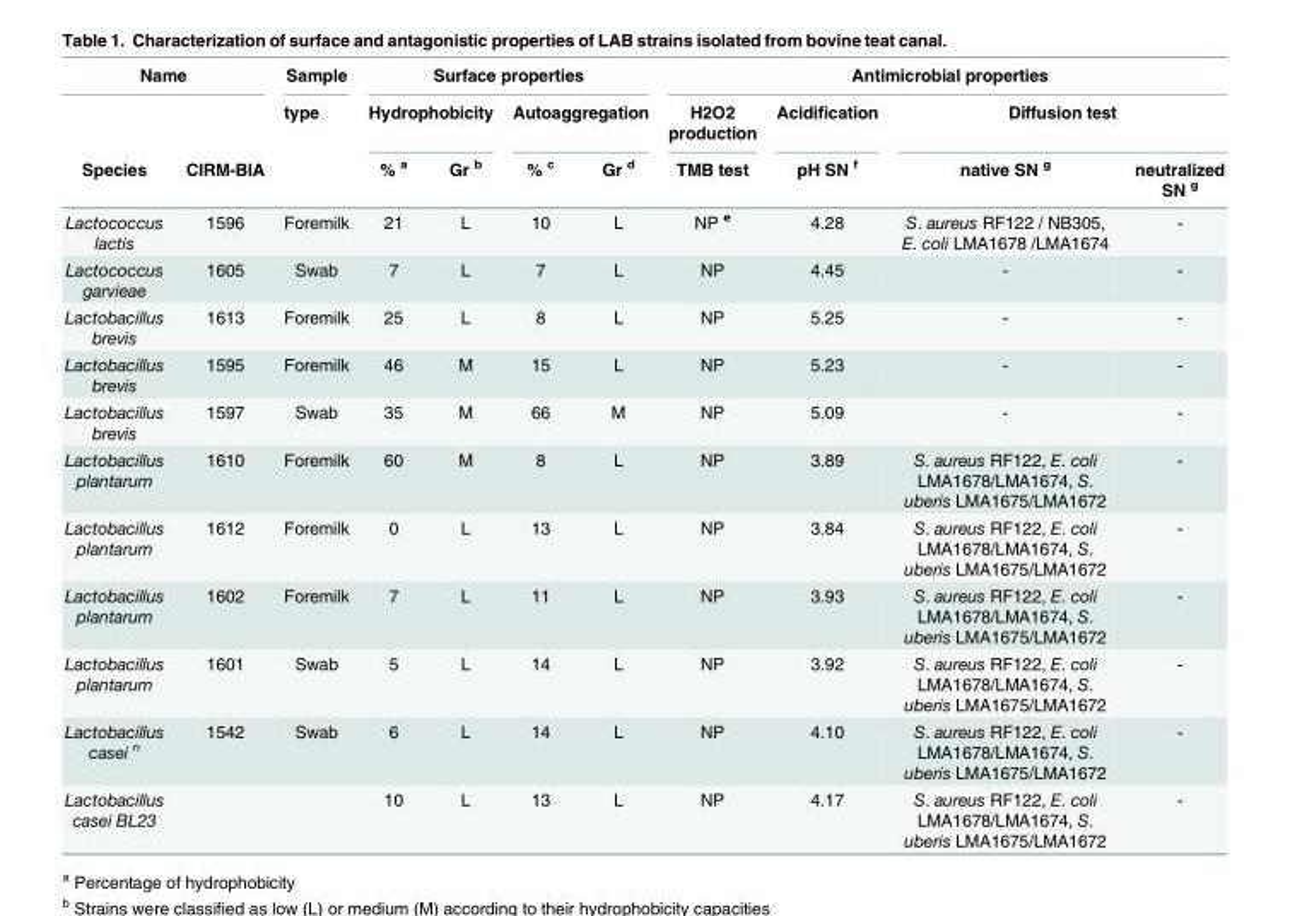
<table><thead><tr><td colspan="2">Name</td><td rowspan="3">Sample type</td><td colspan="4">Surface properties</td><td colspan="4">Antimicrobial properties</td></tr><tr><td rowspan="2">Species</td><td rowspan="2">CIRM-BIA</td><td colspan="2">Hydrophobicity</td><td colspan="2">Autoaggregation</td><td rowspan="2">H2O2 production TMB test</td><td rowspan="2">Acidification pH SN <sup>f</sup></td><td colspan="2">Diffusion test</td></tr><tr><td>% <sup>a</sup></td><td>Gr <sup>b</sup></td><td>% <sup>c</sup></td><td>Gr <sup>d</sup></td><td>native SN <sup>g</sup></td><td>neutralized SN <sup>g</sup></td></tr></thead><tbody><tr><td>Lactococcus lactis</td><td>1596</td><td>Foremilk</td><td>21</td><td>L</td><td>10</td><td>L</td><td>NP <sup>e</sup></td><td>4.28</td><td>S. aureus RF122 / NB305, E. coli LMA1678 /LMA1674</td><td>-</td></tr><tr><td>Lactococcus garvieae</td><td>1605</td><td>Swab</td><td>7</td><td>L</td><td>7</td><td>L</td><td>NP</td><td>4.45</td><td>-</td><td>-</td></tr><tr><td>Lactobacillus brevis</td><td>1613</td><td>Foremilk</td><td>25</td><td>L</td><td>8</td><td>L</td><td>NP</td><td>5.25</td><td>-</td><td>-</td></tr><tr><td>Lactobacillus brevis</td><td>1595</td><td>Foremilk</td><td>46</td><td>M</td><td>15</td><td>L</td><td>NP</td><td>5.23</td><td>-</td><td>-</td></tr><tr><td>Lactobacillus brevis</td><td>1597</td><td>Swab</td><td>35</td><td>M</td><td>66</td><td>M</td><td>NP</td><td>5.09</td><td>-</td><td>-</td></tr><tr><td>Lactobacillus plantarum</td><td>1610</td><td>Foremilk</td><td>60</td><td>M</td><td>8</td><td>L</td><td>NP</td><td>3.89</td><td>S. aureus RF122, E. coli LMA1678/LMA1674, S. uberis LMA1675/LMA1672</td><td>-</td></tr><tr><td>Lactobacillus plantarum</td><td>1612</td><td>Foremilk</td><td>0</td><td>L</td><td>13</td><td>L</td><td>NP</td><td>3.84</td><td>S. aureus RF122, E. coli LMA1678/LMA1674, S. uberis LMA1675/LMA1672</td><td>-</td></tr><tr><td>Lactobacillus plantarum</td><td>1602</td><td>Foremilk</td><td>7</td><td>L</td><td>11</td><td>L</td><td>NP</td><td>3.93</td><td>S. aureus RF122, E. coli LMA1678/LMA1674, S. uberis LMA1675/LMA1672</td><td>-</td></tr><tr><td>Lactobacillus plantarum</td><td>1601</td><td>Swab</td><td>5</td><td>L</td><td>14</td><td>L</td><td>NP</td><td>3.92</td><td>S. aureus RF122, E. coli LMA1678/LMA1674, S. uberis LMA1675/LMA1672</td><td>-</td></tr><tr><td>Lactobacillus casei <sup>n</sup></td><td>1542</td><td>Swab</td><td>6</td><td>L</td><td>14</td><td>L</td><td>NP</td><td>4.10</td><td>S. aureus RF122, E. coli LMA1678/LMA1674, S. uberis LMA1675/LMA1672</td><td>-</td></tr><tr><td>Lactobacillus casei BL23</td><td></td><td></td><td>10</td><td>L</td><td>13</td><td>L</td><td>NP</td><td>4.17</td><td>S. aureus RF122, E. coli LMA1678/LMA1674, S. uberis LMA1675/LMA1672</td><td>-</td></tr></tbody></table>